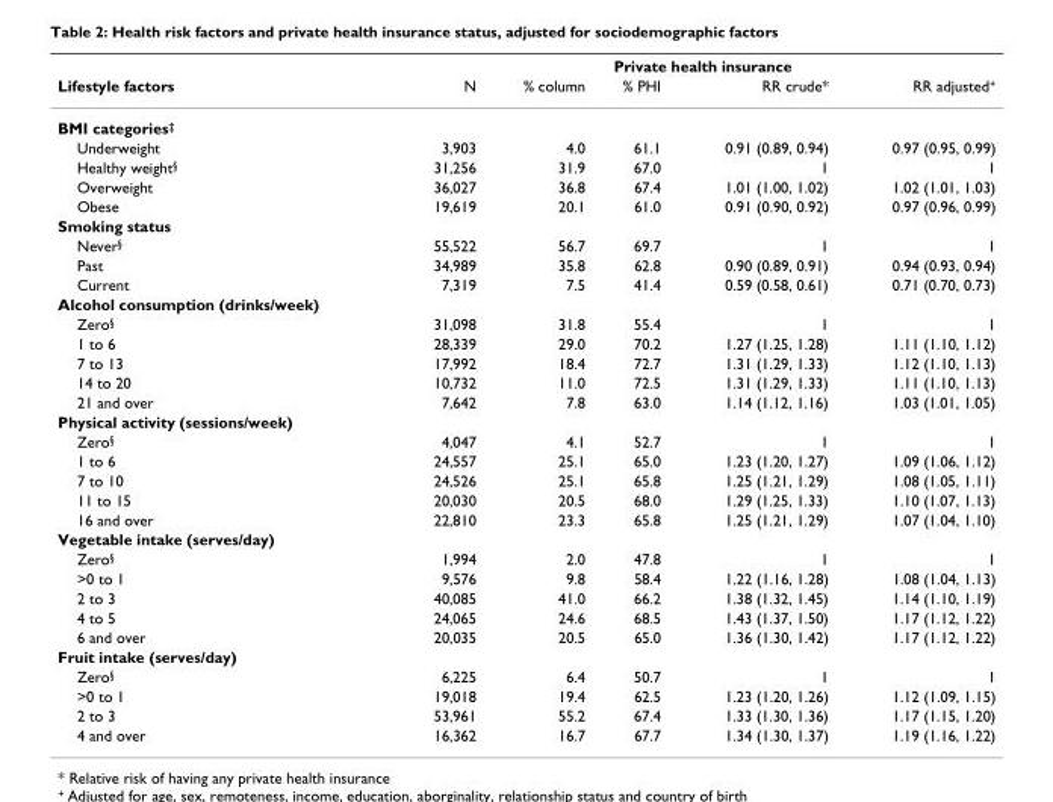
<table><thead><tr><td rowspan="2">Lifestyle factors</td><td colspan="5">Private health insurance</td></tr><tr><td>N</td><td>% column</td><td>% PHI</td><td>RR crude*</td><td>RR adjusted<sup>+</sup></td></tr></thead><tbody><tr><td colspan="6">BMI categories<sup>‡</sup></td></tr><tr><td>Underweight</td><td>3,903</td><td>4.0</td><td>61.1</td><td>0.91 (0.89, 0.94)</td><td>0.97 (0.95, 0.99)</td></tr><tr><td>Healthy weight<sup>§</sup></td><td>31,256</td><td>31.9</td><td>67.0</td><td>1</td><td>1</td></tr><tr><td>Overweight</td><td>36,027</td><td>36.8</td><td>67.4</td><td>1.01 (1.00, 1.02)</td><td>1.02 (1.01, 1.03)</td></tr><tr><td>Obese</td><td>19,619</td><td>20.1</td><td>61.0</td><td>0.91 (0.90, 0.92)</td><td>0.97 (0.96, 0.99)</td></tr><tr><td colspan="6">Smoking status</td></tr><tr><td>Never<sup>§</sup></td><td>55,522</td><td>56.7</td><td>69.7</td><td>1</td><td>1</td></tr><tr><td>Past</td><td>34,989</td><td>35.8</td><td>62.8</td><td>0.90 (0.89, 0.91)</td><td>0.94 (0.93, 0.94)</td></tr><tr><td>Current</td><td>7,319</td><td>7.5</td><td>41.4</td><td>0.59 (0.58, 0.61)</td><td>0.71 (0.70, 0.73)</td></tr><tr><td colspan="6">Alcohol consumption (drinks/week)</td></tr><tr><td>Zero<sup>§</sup></td><td>31,098</td><td>31.8</td><td>55.4</td><td>1</td><td>1</td></tr><tr><td>1 to 6</td><td>28,339</td><td>29.0</td><td>70.2</td><td>1.27 (1.25, 1.28)</td><td>1.11 (1.10, 1.12)</td></tr><tr><td>7 to 13</td><td>17,992</td><td>18.4</td><td>72.7</td><td>1.31 (1.29, 1.33)</td><td>1.12 (1.10, 1.13)</td></tr><tr><td>14 to 20</td><td>10,732</td><td>11.0</td><td>72.5</td><td>1.31 (1.29, 1.33)</td><td>1.11 (1.10, 1.13)</td></tr><tr><td>21 and over</td><td>7,642</td><td>7.8</td><td>63.0</td><td>1.14 (1.12, 1.16)</td><td>1.03 (1.01, 1.05)</td></tr><tr><td colspan="6">Physical activity (sessions/week)</td></tr><tr><td>Zero<sup>§</sup></td><td>4,047</td><td>4.1</td><td>52.7</td><td>1</td><td>1</td></tr><tr><td>1 to 6</td><td>24,557</td><td>25.1</td><td>65.0</td><td>1.23 (1.20, 1.27)</td><td>1.09 (1.06, 1.12)</td></tr><tr><td>7 to 10</td><td>24,526</td><td>25.1</td><td>65.8</td><td>1.25 (1.21, 1.29)</td><td>1.08 (1.05, 1.11)</td></tr><tr><td>11 to 15</td><td>20,030</td><td>20.5</td><td>68.0</td><td>1.29 (1.25, 1.33)</td><td>1.10 (1.07, 1.13)</td></tr><tr><td>16 and over</td><td>22,810</td><td>23.3</td><td>65.8</td><td>1.25 (1.21, 1.29)</td><td>1.07 (1.04, 1.10)</td></tr><tr><td colspan="6">Vegetable intake (serves/day)</td></tr><tr><td>Zero<sup>§</sup></td><td>1,994</td><td>2.0</td><td>47.8</td><td>1</td><td>1</td></tr><tr><td>&gt;0 to 1</td><td>9,576</td><td>9.8</td><td>58.4</td><td>1.22 (1.16, 1.28)</td><td>1.08 (1.04, 1.13)</td></tr><tr><td>2 to 3</td><td>40,085</td><td>41.0</td><td>66.2</td><td>1.38 (1.32, 1.45)</td><td>1.14 (1.10, 1.19)</td></tr><tr><td>4 to 5</td><td>24,065</td><td>24.6</td><td>68.5</td><td>1.43 (1.37, 1.50)</td><td>1.17 (1.12, 1.22)</td></tr><tr><td>6 and over</td><td>20,035</td><td>20.5</td><td>65.0</td><td>1.36 (1.30, 1.42)</td><td>1.17 (1.12, 1.22)</td></tr><tr><td colspan="6">Fruit intake (serves/day)</td></tr><tr><td>Zero<sup>§</sup></td><td>6,225</td><td>6.4</td><td>50.7</td><td>1</td><td>1</td></tr><tr><td>&gt;0 to 1</td><td>19,018</td><td>19.4</td><td>62.5</td><td>1.23 (1.20, 1.26)</td><td>1.12 (1.09, 1.15)</td></tr><tr><td>2 to 3</td><td>53,961</td><td>55.2</td><td>67.4</td><td>1.33 (1.30, 1.36)</td><td>1.17 (1.15, 1.20)</td></tr><tr><td>4 and over</td><td>16,362</td><td>16.7</td><td>67.7</td><td>1.34 (1.30, 1.37)</td><td>1.19 (1.16, 1.22)</td></tr></tbody></table>